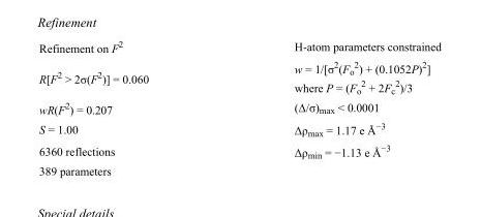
<table><tbody><tr><td>Refinement on F<sup>2</sup></td><td>H-atom parameters constrained</td></tr><tr><td>R[F<sup>2</sup> &gt; 2σ(F<sup>2</sup>)] = 0.060</td><td>w = 1/[σ<sup>2</sup>(F<sub>o</sub> <sup>2</sup>) + (0.1052P)<sup>2</sup>] where P = (F<sub>o</sub> <sup>2</sup> + 2F<sub>c</sub> <sup>2</sup>)/3</td></tr><tr><td>wR(F<sup>2</sup>) = 0.207</td><td>(Δ/σ)<sub>max</sub> &lt; 0.0001</td></tr><tr><td>S = 1.00</td><td>Δρ<sub>max</sub> = 1.17 e Å<sup>−3</sup></td></tr><tr><td>6360 reflections</td><td>Δρ<sub>min</sub> = −1.13 e Å<sup>−3</sup></td></tr><tr><td>389 parameters</td><td></td></tr></tbody></table>